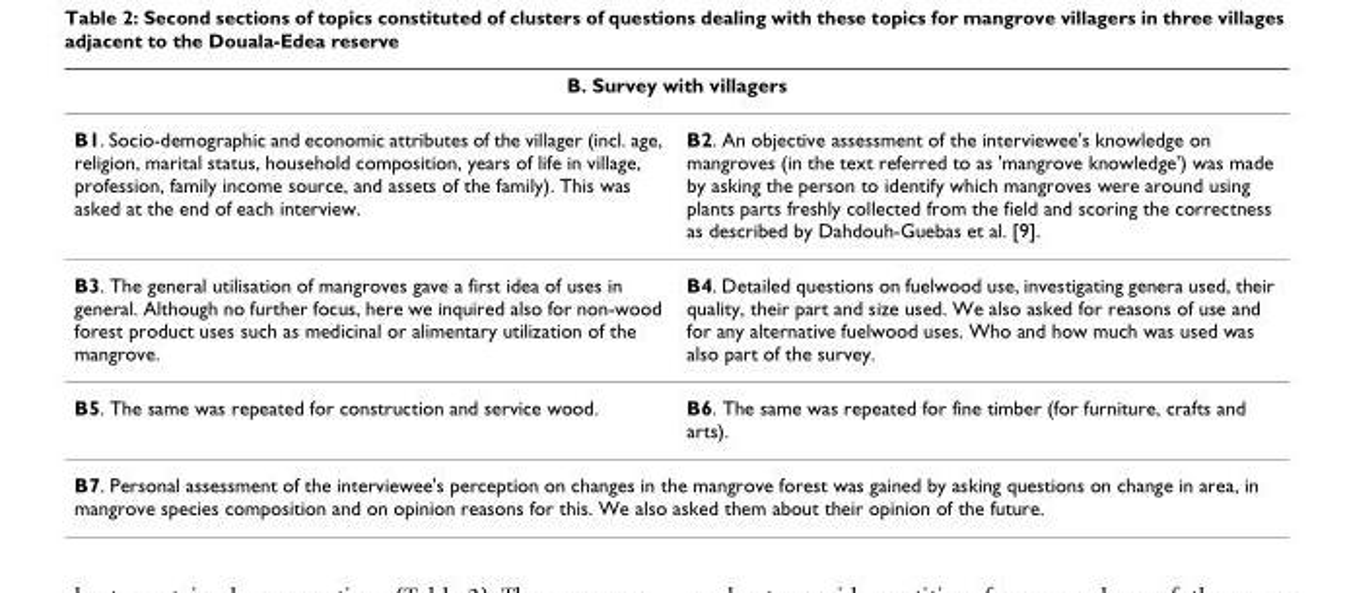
<table><thead><tr><td colspan="2">B. Survey with villagers</td></tr><tr><td>B1. Socio-demographic and economic attributes of the villager (incl. age, religion, marital status, household composition, years of life in village, profession, family income source, and assets of the family). This was asked at the end of each interview.</td><td>B2. An objective assessment of the interviewee&#x27;s knowledge on mangroves (in the text referred to as &#x27;mangrove knowledge&#x27;) was made by asking the person to identify which mangroves were around using plants parts freshly collected from the field and scoring the correctness as described by Dahdouh-Guebas et al. [9].</td></tr></thead><tbody><tr><td>B3. The general utilisation of mangroves gave a first idea of uses in general. Although no further focus, here we inquired also for non-wood forest product uses such as medicinal or alimentary utilization of the mangrove.</td><td>B4. Detailed questions on fuelwood use, investigating genera used, their quality, their part and size used. We also asked for reasons of use and for any alternative fuelwood uses. Who and how much was used was also part of the survey.</td></tr><tr><td>B5. The same was repeated for construction and service wood.</td><td>B6. The same was repeated for fine timber (for furniture, crafts and arts).</td></tr><tr><td colspan="2">B7. Personal assessment of the interviewee&#x27;s perception on changes in the mangrove forest was gained by asking questions on change in area, in mangrove species composition and on opinion reasons for this. We also asked them about their opinion of the future.</td></tr></tbody></table>